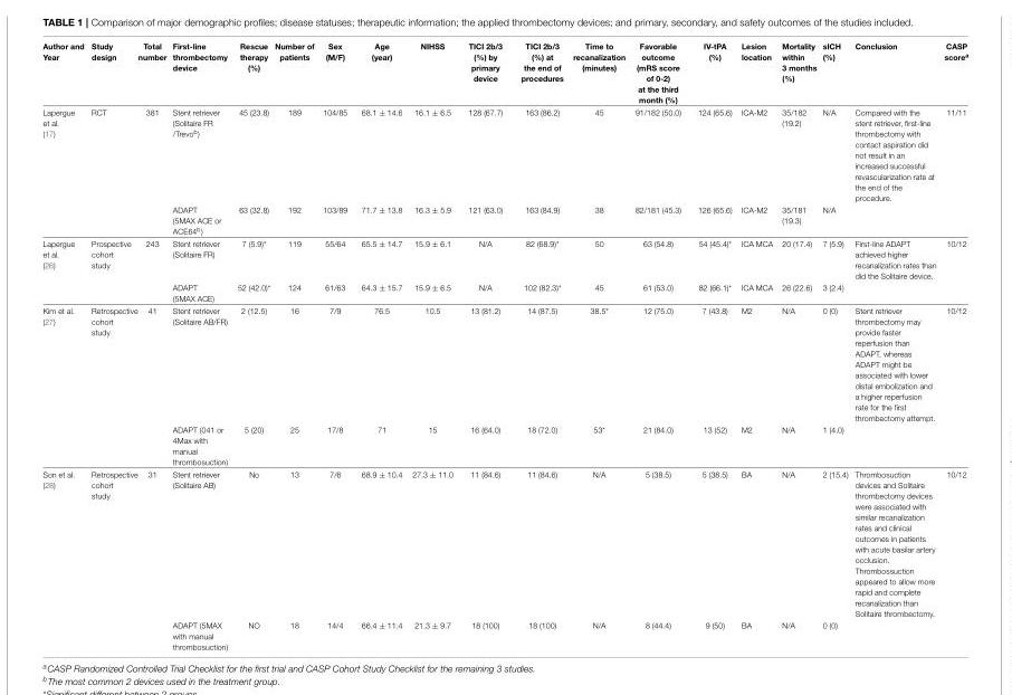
<table><thead><tr><td>Author and Year</td><td>Study design</td><td>Total number</td><td>First-line thrombectomy device</td><td>Rescue therapy (%)</td><td>Number of patients</td><td>Sex (M/F)</td><td>Age (year)</td><td>NIHSS</td><td>TICI 2b/3 (%) by primary device</td><td>TICI 2b/3 (%) at the end of procedures</td><td>Time to recanalization (minutes)</td><td>Favorable outcome (mRS score of 0-2) at the third month (%)</td><td>IV-tPA (%)</td><td>Lesion location</td><td>Mortality within 3 months (%)</td><td>sICH (%)</td><td>Conclusion</td><td>CASP score<sup>a</sup></td></tr></thead><tbody><tr><td rowspan="2">Lapergue et al. (17)</td><td>RCT</td><td>381</td><td>Stent retriever (Solitaire FR /Trevo<sup>b</sup>)</td><td>45 (23.8)</td><td>189</td><td>104/85</td><td>68.1 ± 14.6</td><td>16.1 ± 6.5</td><td>128 (67.7)</td><td>163 (86.2)</td><td>45</td><td>91/182 (50.0)</td><td>124 (65.6)</td><td>ICA-M2</td><td>35/182 (19.2)</td><td>N/A</td><td>Compared with the stent retriever, first-line thrombectomy with contact aspiration did not result in an increased successful revascularization rate at the end of the procedure.</td><td>11/11</td></tr><tr><td></td><td></td><td>ADAPT (5MAX ACE or ACE64<sup>b</sup>)</td><td>63 (32.8)</td><td>192</td><td>103/89</td><td>71.7 ± 13.8</td><td>16.3 ± 5.9</td><td>121 (63.0)</td><td>163 (84.9)</td><td>38</td><td>82/181 (45.3)</td><td>126 (65.6)</td><td>ICA-M2</td><td>35/181 (19.3)</td><td>N/A</td><td></td><td></td></tr><tr><td rowspan="2">Lapergue et al. (26)</td><td>Prospective cohort study</td><td>243</td><td>Stent retriever (Solitaire FR)</td><td>7 (5.9)*</td><td>119</td><td>55/64</td><td>65.5 ± 14.7</td><td>15.9 ± 6.1</td><td>N/A</td><td>82 (68.9)*</td><td>50</td><td>63 (54.8)</td><td>54 (45.4)*</td><td>ICA MCA</td><td>20 (17.4)</td><td>7 (5.9)</td><td>First-line ADAPT achieved higher recanalization rates than did the Solitaire device.</td><td>10/12</td></tr><tr><td></td><td></td><td>ADAPT (5MAX ACE)</td><td>52 (42.0)*</td><td>124</td><td>61/63</td><td>64.3 ± 15.7</td><td>15.9 ± 6.5</td><td>N/A</td><td>102 (82.3)*</td><td>45</td><td>61 (53.0)</td><td>82 (66.1)*</td><td>ICA MCA</td><td>26 (22.6)</td><td>3 (2.4)</td><td></td><td></td></tr><tr><td rowspan="2">Kim et al. (27)</td><td>Retrospective cohort study</td><td>41</td><td>Stent retriever (Solitaire AB/FR)</td><td>2 (12.5)</td><td>16</td><td>7/9</td><td>76.5</td><td>10.5</td><td>13 (81.2)</td><td>14 (87.5)</td><td>38.5*</td><td>12 (75.0)</td><td>7 (43.8)</td><td>M2</td><td>N/A</td><td>0 (0)</td><td>Stent retriever thrombectomy may provide faster reperfusion than ADAPT, whereas ADAPT might be associated with lower distal embolization and a higher reperfusion rate for the first thrombectomy attempt.</td><td>10/12</td></tr><tr><td></td><td></td><td>ADAPT (041 or 4Max with manual thrombosuction)</td><td>5 (20)</td><td>25</td><td>17/8</td><td>71</td><td>15</td><td>16 (64.0)</td><td>18 (72.0)</td><td>53*</td><td>21 (84.0)</td><td>13 (52)</td><td>M2</td><td>N/A</td><td>1 (4.0)</td><td></td><td></td></tr><tr><td rowspan="2">Son et al. (28)</td><td>Retrospective cohort study</td><td>31</td><td>Stent retriever (Solitaire AB)</td><td>No</td><td>13</td><td>7/6</td><td>68.9 ± 10.4</td><td>27.3 ± 11.0</td><td>11 (84.6)</td><td>11 (84.6)</td><td>N/A</td><td>5 (38.5)</td><td>5 (38.5)</td><td>BA</td><td>N/A</td><td>2 (15.4)</td><td>Thrombosuction devices and Solitaire thrombectomy devices were associated with similar recanalization rates and clinical outcomes in patients with acute basilar artery occlusion. Thrombossuction appeared to allow more rapid and complete recanalization than Solitaire thrombectomy.</td><td>10/12</td></tr><tr><td></td><td></td><td>ADAPT (5MAX with manual thrombosuction)</td><td>NO</td><td>18</td><td>14/4</td><td>66.4 ± 11.4</td><td>21.3 ± 9.7</td><td>18 (100)</td><td>18 (100)</td><td>N/A</td><td>8 (44.4)</td><td>9 (50)</td><td>BA</td><td>N/A</td><td>0 (0)</td><td></td><td></td></tr></tbody></table>